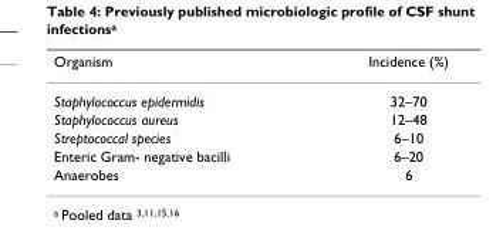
<table><thead><tr><td>Organism</td><td>Incidence (%)</td></tr></thead><tbody><tr><td>Staphylococcus epidermidis</td><td>32–70</td></tr><tr><td>Staphylococcus aureus</td><td>12–48</td></tr><tr><td>Streptococcal species</td><td>6–10</td></tr><tr><td>Enteric Gram- negative bacilli</td><td>6–20</td></tr><tr><td>Anaerobes</td><td>6</td></tr></tbody></table>